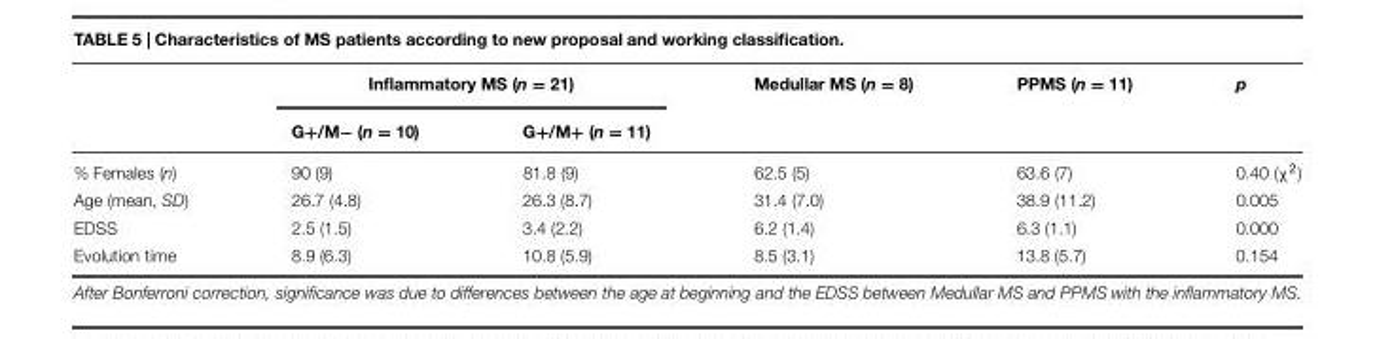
<table><thead><tr><td rowspan="2"></td><td colspan="2">Inflammatory MS (n = 21)</td><td rowspan="2">Medullar MS (n = 8)</td><td rowspan="2">PPMS (n = 11)</td><td rowspan="2">p</td></tr><tr><td>G+/M− (n = 10)</td><td>G+/M+ (n = 11)</td></tr></thead><tbody><tr><td>% Females (n)</td><td>90 (9)</td><td>81.8 (9)</td><td>62.5 (5)</td><td>63.6 (7)</td><td>0.40 (χ<sup>2</sup>)</td></tr><tr><td>Age (mean, SD)</td><td>26.7 (4.8)</td><td>26.3 (8.7)</td><td>31.4 (7.0)</td><td>38.9 (11.2)</td><td>0.005</td></tr><tr><td>EDSS</td><td>2.5 (1.5)</td><td>3.4 (2.2)</td><td>6.2 (1.4)</td><td>6.3 (1.1)</td><td>0.000</td></tr><tr><td>Evolution time</td><td>8.9 (6.3)</td><td>10.8 (5.9)</td><td>8.5 (3.1)</td><td>13.8 (5.7)</td><td>0.154</td></tr></tbody></table>